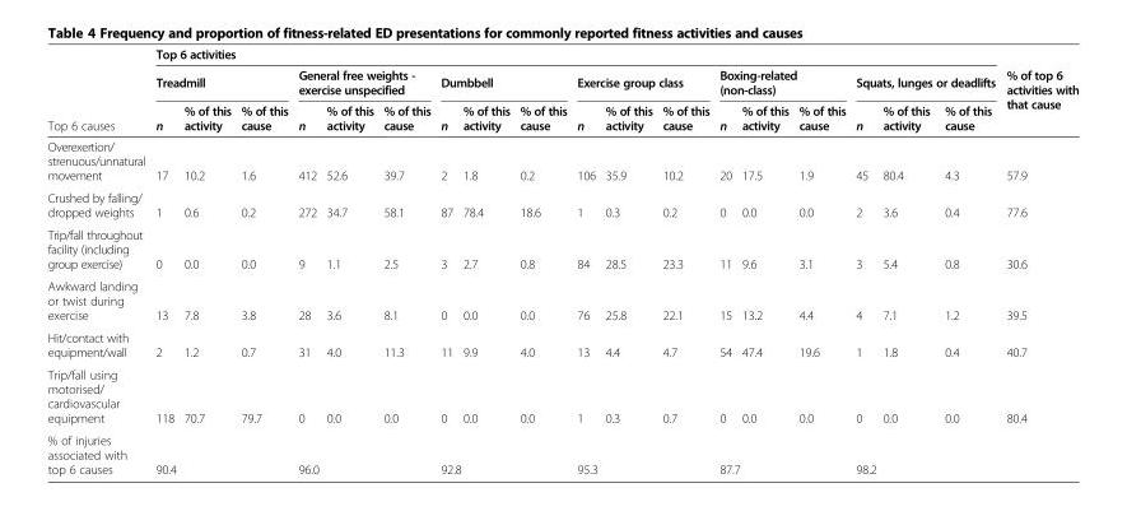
<table><thead><tr><td rowspan="3">Top 6 causes</td><td colspan="18">Top 6 activities</td><td rowspan="3">% of top 6 activities with that cause</td></tr><tr><td colspan="3">Treadmill</td><td colspan="3">General free weights - exercise unspecified</td><td colspan="3">Dumbbell</td><td colspan="3">Exercise group class</td><td colspan="3">Boxing-related (non-class)</td><td colspan="3">Squats, lunges or deadlifts</td></tr><tr><td>n</td><td>% of this activity</td><td>% of this cause</td><td>n</td><td>% of this activity</td><td>% of this cause</td><td>n</td><td>% of this activity</td><td>% of this cause</td><td>n</td><td>% of this activity</td><td>% of this cause</td><td>n</td><td>% of this activity</td><td>% of this cause</td><td>n</td><td>% of this activity</td><td>% of this cause</td></tr></thead><tbody><tr><td>Overexertion/ strenuous/unnatural movement</td><td>17</td><td>10.2</td><td>1.6</td><td>412</td><td>52.6</td><td>39.7</td><td>2</td><td>1.8</td><td>0.2</td><td>106</td><td>35.9</td><td>10.2</td><td>20</td><td>17.5</td><td>1.9</td><td>45</td><td>80.4</td><td>4.3</td><td>57.9</td></tr><tr><td>Crushed by falling/ dropped weights</td><td>1</td><td>0.6</td><td>0.2</td><td>272</td><td>34.7</td><td>58.1</td><td>87</td><td>78.4</td><td>18.6</td><td>1</td><td>0.3</td><td>0.2</td><td>0</td><td>0.0</td><td>0.0</td><td>2</td><td>3.6</td><td>0.4</td><td>77.6</td></tr><tr><td>Trip/fall throughout facility (including group exercise)</td><td>0</td><td>0.0</td><td>0.0</td><td>9</td><td>1.1</td><td>2.5</td><td>3</td><td>2.7</td><td>0.8</td><td>84</td><td>28.5</td><td>23.3</td><td>11</td><td>9.6</td><td>3.1</td><td>3</td><td>5.4</td><td>0.8</td><td>30.6</td></tr><tr><td>Awkward landing or twist during exercise</td><td>13</td><td>7.8</td><td>3.8</td><td>28</td><td>3.6</td><td>8.1</td><td>0</td><td>0.0</td><td>0.0</td><td>76</td><td>25.8</td><td>22.1</td><td>15</td><td>13.2</td><td>4.4</td><td>4</td><td>7.1</td><td>1.2</td><td>39.5</td></tr><tr><td>Hit/contact with equipment/wall</td><td>2</td><td>1.2</td><td>0.7</td><td>31</td><td>4.0</td><td>11.3</td><td>11</td><td>9.9</td><td>4.0</td><td>13</td><td>4.4</td><td>4.7</td><td>54</td><td>47.4</td><td>19.6</td><td>1</td><td>1.8</td><td>0.4</td><td>40.7</td></tr><tr><td>Trip/fall using motorised/ cardiovascular equipment</td><td>118</td><td>70.7</td><td>79.7</td><td>0</td><td>0.0</td><td>0.0</td><td>0</td><td>0.0</td><td>0.0</td><td>1</td><td>0.3</td><td>0.7</td><td>0</td><td>0.0</td><td>0.0</td><td>0</td><td>0.0</td><td>0.0</td><td>80.4</td></tr><tr><td>% of injuries associated with top 6 causes</td><td colspan="3">90.4</td><td colspan="3">96.0</td><td colspan="3">92.8</td><td colspan="3">95.3</td><td colspan="3">87.7</td><td colspan="3">98.2</td><td></td></tr></tbody></table>